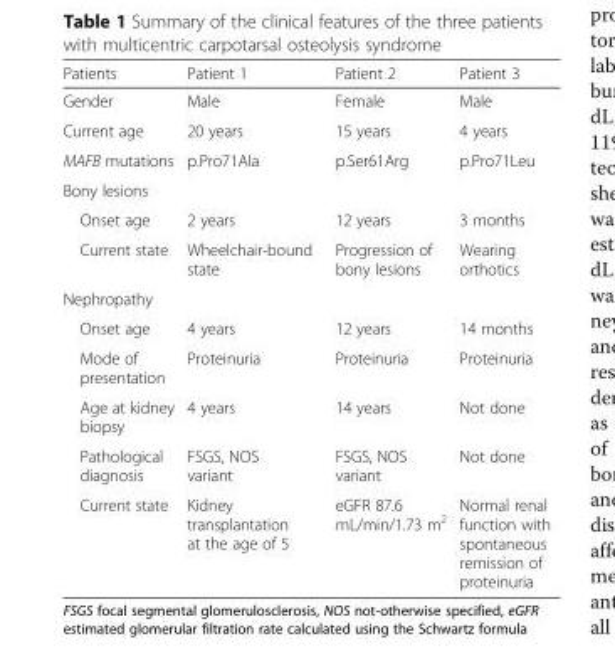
<table><thead><tr><td>Patients</td><td>Patient 1</td><td>Patient 2</td><td>Patient 3</td></tr></thead><tbody><tr><td>Gender</td><td>Male</td><td>Female</td><td>Male</td></tr><tr><td>Current age</td><td>20 years</td><td>15 years</td><td>4 years</td></tr><tr><td>MAFB mutations</td><td>p.Pro71Ala</td><td>p.Ser61Arg</td><td>p.Pro71Leu</td></tr><tr><td colspan="4">Bony lesions</td></tr><tr><td>Onset age</td><td>2 years</td><td>12 years</td><td>3 months</td></tr><tr><td>Current state</td><td>Wheelchair-bound state</td><td>Progression of bony lesions</td><td>Wearing orthotics</td></tr><tr><td colspan="4">Nephropathy</td></tr><tr><td>Onset age</td><td>4 years</td><td>12 years</td><td>14 months</td></tr><tr><td>Mode of presentation</td><td>Proteinuria</td><td>Proteinuria</td><td>Proteinuria</td></tr><tr><td>Age at kidney biopsy</td><td>4 years</td><td>14 years</td><td>Not done</td></tr><tr><td>Pathological diagnosis</td><td>FSGS, NOS variant</td><td>FSGS, NOS variant</td><td>Not done</td></tr><tr><td>Current state</td><td>Kidney transplantation at the age of 5</td><td>eGFR 87.6 mL/min/1.73 m<sup>2</sup></td><td>Normal renal function with spontaneous remission of proteinuria</td></tr></tbody></table>